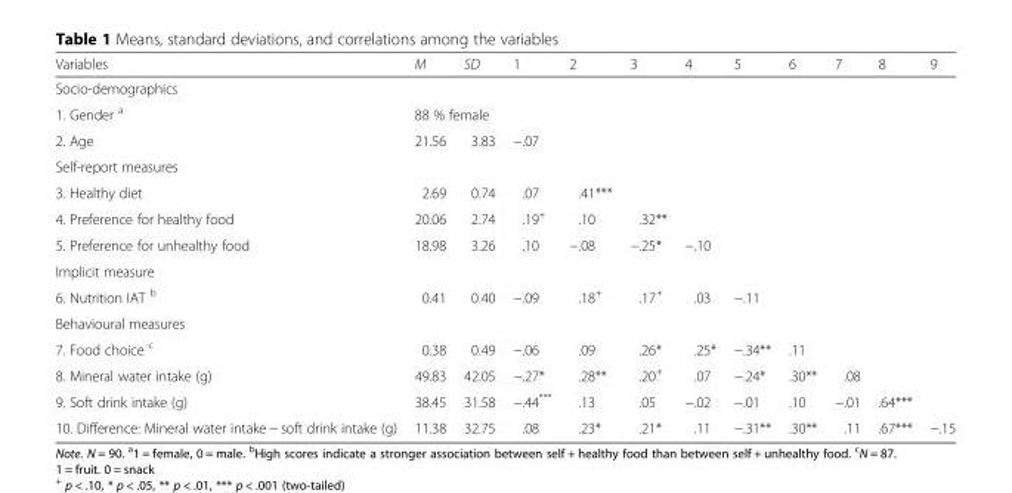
<table><thead><tr><td>Variables</td><td>M</td><td>SD</td><td>1</td><td>2</td><td>3</td><td>4</td><td>5</td><td>6</td><td>7</td><td>8</td><td>9</td></tr></thead><tbody><tr><td colspan="12">Socio-demographics</td></tr><tr><td>1. Gender <sup>a</sup></td><td colspan="2">88 % female</td><td></td><td></td><td></td><td></td><td></td><td></td><td></td><td></td><td></td></tr><tr><td>2. Age</td><td>21.56</td><td>3.83</td><td>−.07</td><td></td><td></td><td></td><td></td><td></td><td></td><td></td><td></td></tr><tr><td colspan="12">Self-report measures</td></tr><tr><td>3. Healthy diet</td><td>2.69</td><td>0.74</td><td>.07</td><td>.41***</td><td></td><td></td><td></td><td></td><td></td><td></td><td></td></tr><tr><td>4. Preference for healthy food</td><td>20.06</td><td>2.74</td><td>.19<sup>+</sup></td><td>.10</td><td>.32**</td><td></td><td></td><td></td><td></td><td></td><td></td></tr><tr><td>5. Preference for unhealthy food</td><td>18.98</td><td>3.26</td><td>.10</td><td>−.08</td><td>−.25*</td><td>−.10</td><td></td><td></td><td></td><td></td><td></td></tr><tr><td colspan="12">Implicit measure</td></tr><tr><td>6. Nutrition IAT <sup>b</sup></td><td>0.41</td><td>0.40</td><td>−.09</td><td>.18<sup>+</sup></td><td>.17<sup>+</sup></td><td>.03</td><td>−.11</td><td></td><td></td><td></td><td></td></tr><tr><td colspan="12">Behavioural measures</td></tr><tr><td>7. Food choice <sup>c</sup></td><td>0.38</td><td>0.49</td><td>−.06</td><td>.09</td><td>.26*</td><td>.25*</td><td>−.34**</td><td>.11</td><td></td><td></td><td></td></tr><tr><td>8. Mineral water intake (g)</td><td>49.83</td><td>42.05</td><td>−.27*</td><td>.28**</td><td>.20<sup>+</sup></td><td>.07</td><td>−.24*</td><td>.30**</td><td>.08</td><td></td><td></td></tr><tr><td>9. Soft drink intake (g)</td><td>38.45</td><td>31.58</td><td>−.44***</td><td>.13</td><td>.05</td><td>−.02</td><td>−.01</td><td>.10</td><td>−.01</td><td>.64***</td><td></td></tr><tr><td>10. Difference: Mineral water intake − soft drink intake (g)</td><td>11.38</td><td>32.75</td><td>.08</td><td>.23*</td><td>.21*</td><td>.11</td><td>−.31**</td><td>.30**</td><td>.11</td><td>.67***</td><td>−.15</td></tr></tbody></table>